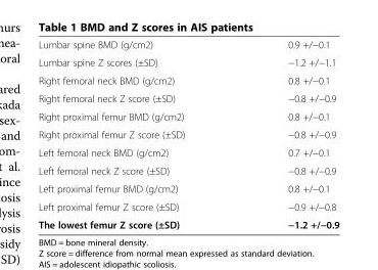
<table><tbody><tr><td>Lumbar spine BMD (g/cm2)</td><td>0.9 +/−0.1</td></tr><tr><td>Lumbar spine Z scores (±SD)</td><td>−1.2 +/−1.1</td></tr><tr><td>Right femoral neck BMD (g/cm2)</td><td>0.8 +/−0.1</td></tr><tr><td>Right femoral neck Z score (±SD)</td><td>−0.8 +/−0.9</td></tr><tr><td>Right proximal femur BMD (g/cm2)</td><td>0.8 +/−0.1</td></tr><tr><td>Right proximal femur Z score (±SD)</td><td>−0.8 +/−0.9</td></tr><tr><td>Left femoral neck BMD (g/cm2)</td><td>0.7 +/−0.1</td></tr><tr><td>Left femoral neck Z score (±SD)</td><td>−0.8 +/−0.9</td></tr><tr><td>Left proximal femur BMD (g/cm2)</td><td>0.8 +/−0.1</td></tr><tr><td>Left proximal femur Z score (±SD)</td><td>−0.9 +/−0.8</td></tr><tr><td>The lowest femur Z score (±SD)</td><td>−1.2 +/−0.9</td></tr></tbody></table>